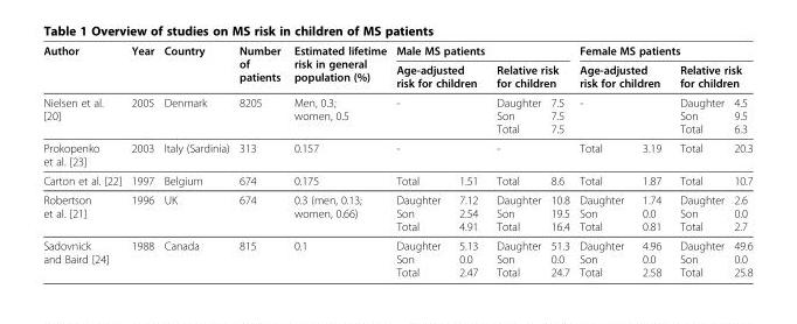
<table><thead><tr><td rowspan="5">Author Nielsen et al. [20]</td><td rowspan="5">Year 2005</td><td rowspan="5">Country Denmark</td><td rowspan="5">Number of patients 8205</td><td rowspan="5">Estimated lifetime risk in general population (%) Men, 0.3; women, 0.5</td><td colspan="4">Male MS patients</td><td colspan="4">Female MS patients</td></tr><tr><td rowspan="3" colspan="2">Age-adjusted risk for children -</td><td colspan="2">Relative risk for children</td><td rowspan="3" colspan="2">Age-adjusted risk for children -</td><td colspan="2">Relative risk for children</td></tr><tr><td rowspan="3">Daughter Son Total</td><td rowspan="3">7.5 7.5 7.5</td><td rowspan="3">Daughter Son Total</td><td rowspan="3">4.5 9.5 6.3</td></tr><tr></tr><tr><td></td><td></td><td></td><td></td></tr></thead><tbody><tr><td>Prokopenko et al. [23]</td><td>2003</td><td>Italy (Sardinia)</td><td>313</td><td>0.157</td><td colspan="2">-</td><td colspan="2">-</td><td>Total</td><td>3.19</td><td>Total</td><td>20.3</td></tr><tr><td>Carton et al. [22]</td><td>1997</td><td>Belgium</td><td>674</td><td>0.175</td><td>Total</td><td>1.51</td><td>Total</td><td>8.6</td><td>Total</td><td>1.87</td><td>Total</td><td>10.7</td></tr><tr><td rowspan="3">Robertson et al. [21]</td><td rowspan="2">1996</td><td rowspan="2">UK</td><td rowspan="2">674</td><td rowspan="2">0.3 (men, 0.13; women, 0.66)</td><td>Daughter</td><td>7.12</td><td>Daughter</td><td>10.8</td><td>Daughter</td><td>1.74</td><td>Daughter</td><td>2.6</td></tr><tr><td>Son</td><td>2.54</td><td>Son</td><td>19.5</td><td>Son</td><td>0.0</td><td>Son</td><td>0.0</td></tr><tr><td></td><td></td><td></td><td></td><td>Total</td><td>4.91</td><td>Total</td><td>16.4</td><td>Total</td><td>0.81</td><td>Total</td><td>2.7</td></tr><tr><td rowspan="3">Sadovnick and Baird [24]</td><td rowspan="2">1988</td><td rowspan="2">Canada</td><td rowspan="2">815</td><td rowspan="2">0.1</td><td>Daughter</td><td>5.13</td><td>Daughter</td><td>51.3</td><td>Daughter</td><td>4.96</td><td>Daughter</td><td>49.6</td></tr><tr><td>Son</td><td>0.0</td><td>Son</td><td>0.0</td><td>Son</td><td>0.0</td><td>Son</td><td>0.0</td></tr><tr><td></td><td></td><td></td><td></td><td>Total</td><td>2.47</td><td>Total</td><td>24.7</td><td>Total</td><td>2.58</td><td>Total</td><td>25.8</td></tr></tbody></table>